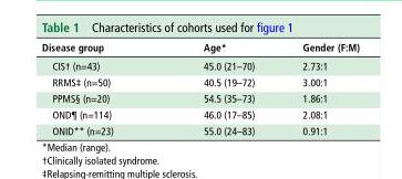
<table><thead><tr><td>disease group</td><td>Age*</td><td>Gender (F:M)</td></tr></thead><tbody><tr><td>CIS† (n=43)</td><td>45.0 (21–70)</td><td>2.73:1</td></tr><tr><td>RRMS‡ (n=50)</td><td>40.5 (19–72)</td><td>3.00:1</td></tr><tr><td>PPMS§ (n=20)</td><td>54.5 (35–73)</td><td>1.86:1</td></tr><tr><td>OND¶ (n=114)</td><td>46.0 (17–85)</td><td>2.08:1</td></tr><tr><td>ONID** (n=23)</td><td>55.0 (24–83)</td><td>0.91:1</td></tr></tbody></table>